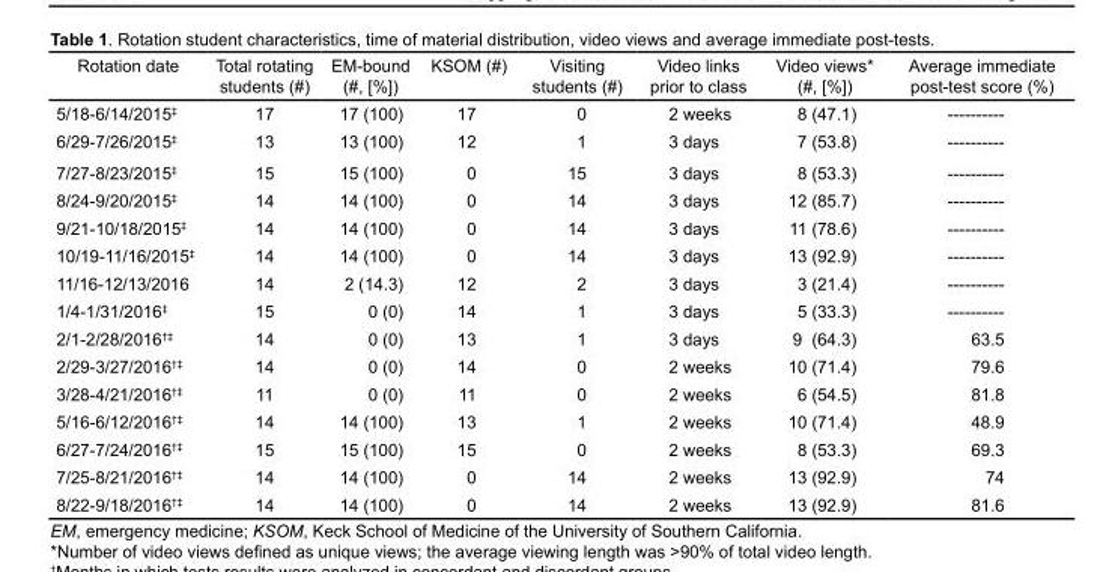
<table><thead><tr><td>Rotation date</td><td>Total rotating students (#)</td><td>EM-bound (#, [%])</td><td>KSOM (#)</td><td>Visiting students (#)</td><td>Video links prior to class</td><td>Video views* (#, [%])</td><td>Average immediate post-test score (%)</td></tr></thead><tbody><tr><td>5/18-6/14/2015‡</td><td>17</td><td>17 (100)</td><td>17</td><td>0</td><td>2 weeks</td><td>8 (47.1)</td><td>----------</td></tr><tr><td>6/29-7/26/2015‡</td><td>13</td><td>13 (100)</td><td>12</td><td>1</td><td>3 days</td><td>7 (53.8)</td><td>----------</td></tr><tr><td>7/27-8/23/2015‡</td><td>15</td><td>15 (100)</td><td>0</td><td>15</td><td>3 days</td><td>8 (53.3)</td><td>----------</td></tr><tr><td>8/24-9/20/2015‡</td><td>14</td><td>14 (100)</td><td>0</td><td>14</td><td>3 days</td><td>12 (85.7)</td><td>----------</td></tr><tr><td>9/21-10/18/2015‡</td><td>14</td><td>14 (100)</td><td>0</td><td>14</td><td>3 days</td><td>11 (78.6)</td><td>----------</td></tr><tr><td>10/19-11/16/2015‡</td><td>14</td><td>14 (100)</td><td>0</td><td>14</td><td>3 days</td><td>13 (92.9)</td><td>----------</td></tr><tr><td>11/16-12/13/2016</td><td>14</td><td>2 (14.3)</td><td>12</td><td>2</td><td>3 days</td><td>3 (21.4)</td><td>----------</td></tr><tr><td>1/4-1/31/2016‡</td><td>15</td><td>0 (0)</td><td>14</td><td>1</td><td>3 days</td><td>5 (33.3)</td><td>----------</td></tr><tr><td>2/1-2/28/2016†‡</td><td>14</td><td>0 (0)</td><td>13</td><td>1</td><td>3 days</td><td>9 (64.3)</td><td>63.5</td></tr><tr><td>2/29-3/27/2016†‡</td><td>14</td><td>0 (0)</td><td>14</td><td>0</td><td>2 weeks</td><td>10 (71.4)</td><td>79.6</td></tr><tr><td>3/28-4/21/2016†‡</td><td>11</td><td>0 (0)</td><td>11</td><td>0</td><td>2 weeks</td><td>6 (54.5)</td><td>81.8</td></tr><tr><td>5/16-6/12/2016†‡</td><td>14</td><td>14 (100)</td><td>13</td><td>1</td><td>2 weeks</td><td>10 (71.4)</td><td>48.9</td></tr><tr><td>6/27-7/24/2016†‡</td><td>15</td><td>15 (100)</td><td>15</td><td>0</td><td>2 weeks</td><td>8 (53.3)</td><td>69.3</td></tr><tr><td>7/25-8/21/2016†‡</td><td>14</td><td>14 (100)</td><td>0</td><td>14</td><td>2 weeks</td><td>13 (92.9)</td><td>74</td></tr><tr><td>8/22-9/18/2016†‡</td><td>14</td><td>14 (100)</td><td>0</td><td>14</td><td>2 weeks</td><td>13 (92.9)</td><td>81.6</td></tr></tbody></table>